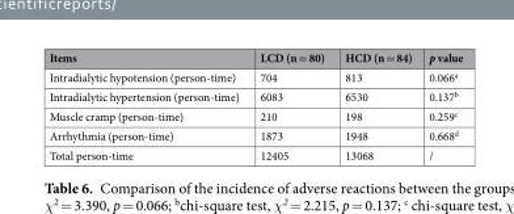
<table><thead><tr><td>Items</td><td>LCD (n = 80)</td><td>HCD (n = 84)</td><td>p value</td></tr></thead><tbody><tr><td>Intradialytic hypotension (person-time)</td><td>704</td><td>813</td><td>0.066<sup>a</sup></td></tr><tr><td>Intradialytic hypertension (person-time)</td><td>6083</td><td>6530</td><td>0.137<sup>b</sup></td></tr><tr><td>Muscle cramp (person-time)</td><td>210</td><td>198</td><td>0.259<sup>c</sup></td></tr><tr><td>Arrhythmia (person-time)</td><td>1873</td><td>1948</td><td>0.668<sup>d</sup></td></tr><tr><td>Total person-time</td><td>12405</td><td>13068</td><td>/</td></tr></tbody></table>